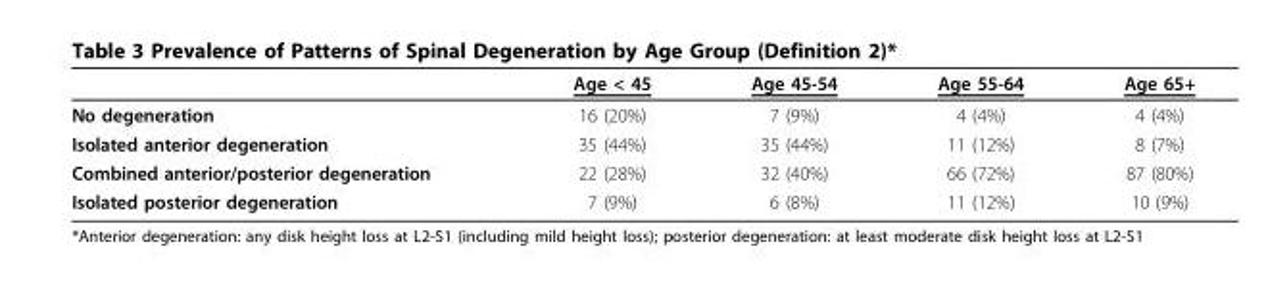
<table><thead><tr><td></td><td>Age &lt; 45</td><td>Age 45-54</td><td>Age 55-64</td><td>Age 65+</td></tr></thead><tbody><tr><td>No degeneration</td><td>16 (20%)</td><td>7 (9%)</td><td>4 (4%)</td><td>4 (4%)</td></tr><tr><td>Isolated anterior degeneration</td><td>35 (44%)</td><td>35 (44%)</td><td>11 (12%)</td><td>8 (7%)</td></tr><tr><td>Combined anterior/posterior degeneration</td><td>22 (28%)</td><td>32 (40%)</td><td>66 (72%)</td><td>87 (80%)</td></tr><tr><td>Isolated posterior degeneration</td><td>7 (9%)</td><td>6 (8%)</td><td>11 (12%)</td><td>10 (9%)</td></tr></tbody></table>